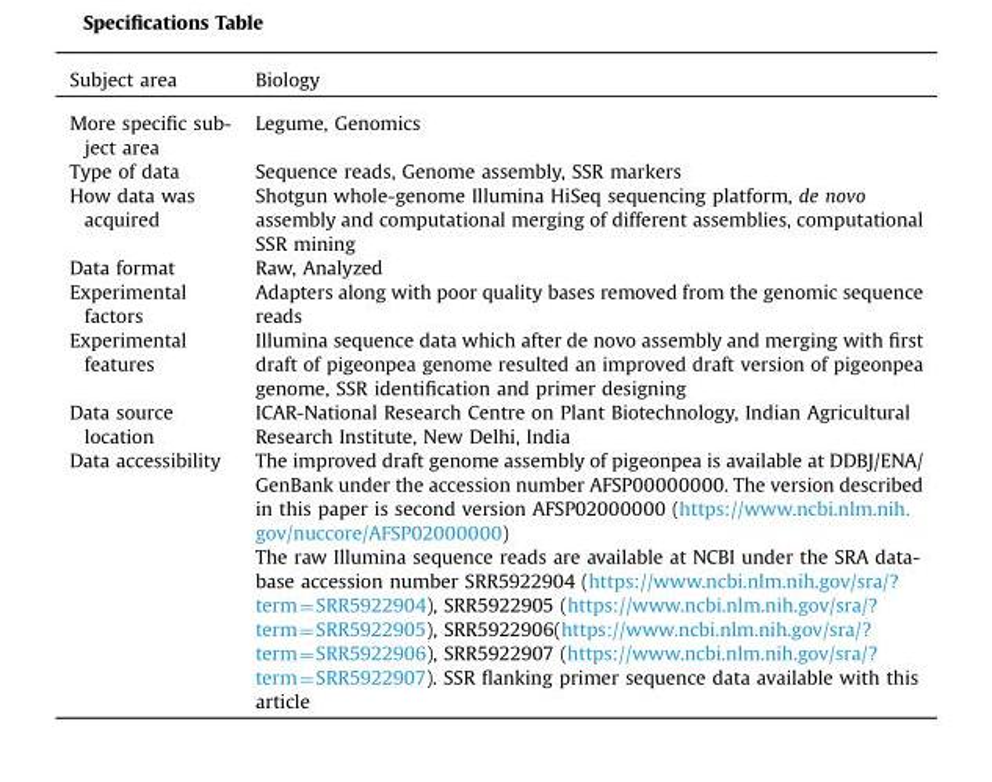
<table><thead><tr><td>Subject area</td><td>Biology</td></tr></thead><tbody><tr><td>More specific sub- ject area</td><td>Legume, Genomics</td></tr><tr><td>Type of data</td><td>Sequence reads, Genome assembly, SSR markers</td></tr><tr><td>How data was acquired</td><td>Shotgun whole-genome Illumina HiSeq sequencing platform, de novo assembly and computational merging of different assemblies, computational SSR mining</td></tr><tr><td>Data format</td><td>Raw, Analyzed</td></tr><tr><td>Experimental factors</td><td>Adapters along with poor quality bases removed from the genomic sequence reads</td></tr><tr><td>Experimental features</td><td>Illumina sequence data which after de novo assembly and merging with first draft of pigeonpea genome resulted an improved draft version of pigeonpea genome, SSR identification and primer designing</td></tr><tr><td>Data source location</td><td>ICAR-National Research Centre on Plant Biotechnology, Indian Agricultural Research Institute, New Delhi, India</td></tr><tr><td rowspan="2">Data accessibility</td><td>The improved draft genome assembly of pigeonpea is available at DDBJ/ENA/ GenBank under the accession number AFSP00000000. The version described in this paper is second version AFSP02000000 (https://www.ncbi.nlm.nih. gov/nuccore/AFSP02000000)</td></tr><tr><td>The raw Illumina sequence reads are available at NCBI under the SRA data- base accession number SRR5922904 (https://www.ncbi.nlm.nih.gov/sra/? term¼SRR5922904), SRR5922905 (https://www.ncbi.nlm.nih.gov/sra/? term¼SRR5922905), SRR5922906(https://www.ncbi.nlm.nih.gov/sra/? term¼SRR5922906), SRR5922907 (https://www.ncbi.nlm.nih.gov/sra/? term¼SRR5922907). SSR flanking primer sequence data available with this article</td></tr></tbody></table>